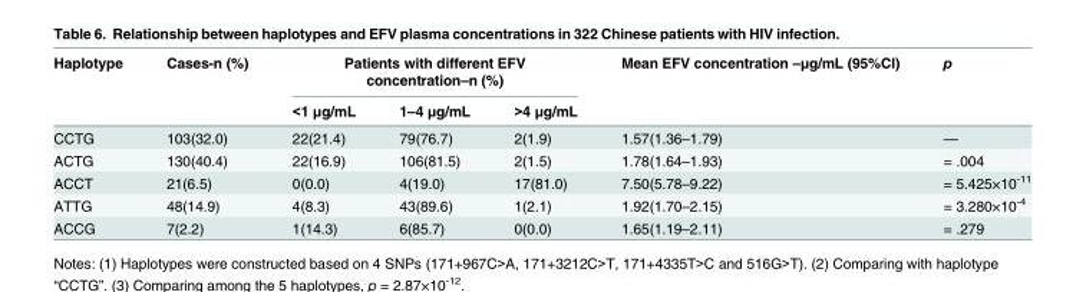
<table><thead><tr><td rowspan="2">Haplotype</td><td rowspan="2">Cases-n (%)</td><td colspan="3">Patients with different EFV concentration–n (%)</td><td rowspan="2">Mean EFV concentration –μg/mL (95%CI)</td><td rowspan="2">p</td></tr><tr><td>&lt;1 μg/mL</td><td>1–4 μg/mL</td><td>&gt;4 μg/mL</td></tr></thead><tbody><tr><td>CCTG</td><td>103(32.0)</td><td>22(21.4)</td><td>79(76.7)</td><td>2(1.9)</td><td>1.57(1.36–1.79)</td><td>—</td></tr><tr><td>ACTG</td><td>130(40.4)</td><td>22(16.9)</td><td>106(81.5)</td><td>2(1.5)</td><td>1.78(1.64–1.93)</td><td>= .004</td></tr><tr><td>ACCT</td><td>21(6.5)</td><td>0(0.0)</td><td>4(19.0)</td><td>17(81.0)</td><td>7.50(5.78–9.22)</td><td>= 5.425×10<sup>-11</sup></td></tr><tr><td>ATTG</td><td>48(14.9)</td><td>4(8.3)</td><td>43(89.6)</td><td>1(2.1)</td><td>1.92(1.70–2.15)</td><td>= 3.280×10<sup>-4</sup></td></tr><tr><td>ACCG</td><td>7(2.2)</td><td>1(14.3)</td><td>6(85.7)</td><td>0(0.0)</td><td>1.65(1.19–2.11)</td><td>= .279</td></tr></tbody></table>